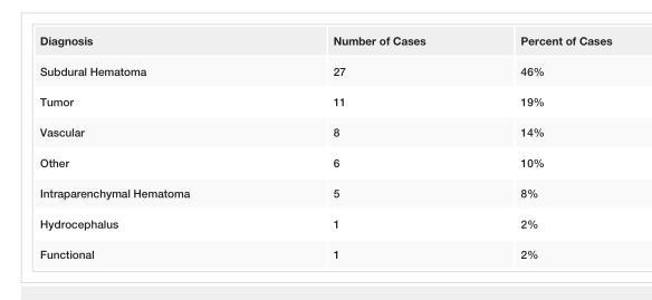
<table><tbody><tr><td>Diagnosis</td><td>Number of Cases</td><td>Percent of Cases</td></tr><tr><td>Subdural Hematoma</td><td>27</td><td>46%</td></tr><tr><td>Tumor</td><td>11</td><td>19%</td></tr><tr><td>Vascular</td><td>8</td><td>14%</td></tr><tr><td>Other</td><td>6</td><td>10%</td></tr><tr><td>Intraparenchymal Hematoma</td><td>5</td><td>8%</td></tr><tr><td>Hydrocephalus</td><td>1</td><td>2%</td></tr><tr><td>Functional</td><td>1</td><td>2%</td></tr></tbody></table>